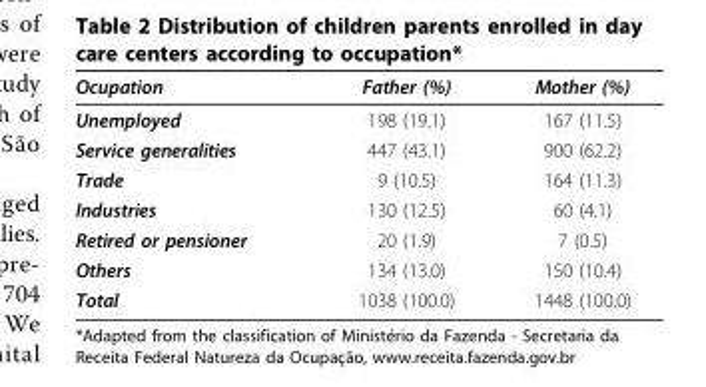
<table><thead><tr><td>Ocupation</td><td>Father (%)</td><td>Mother (%)</td></tr></thead><tbody><tr><td>Unemployed</td><td>198 (19.1)</td><td>167 (11.5)</td></tr><tr><td>Service generalities</td><td>447 (43.1)</td><td>900 (62.2)</td></tr><tr><td>Trade</td><td>9 (10.5)</td><td>164 (11.3)</td></tr><tr><td>Industries</td><td>130 (12.5)</td><td>60 (4.1)</td></tr><tr><td>Retired or pensioner</td><td>20 (1.9)</td><td>7 (0.5)</td></tr><tr><td>Others</td><td>134 (13.0)</td><td>150 (10.4)</td></tr><tr><td>Total</td><td>1038 (100.0)</td><td>1448 (100.0)</td></tr></tbody></table>